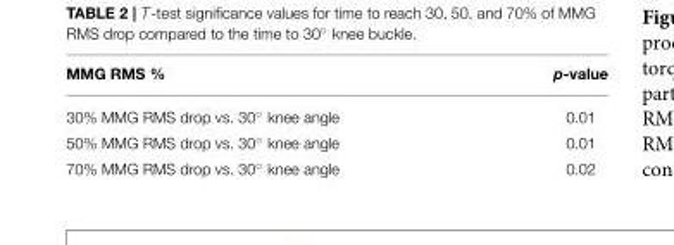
<table><thead><tr><td>MMG RMS %</td><td>p-value</td></tr></thead><tbody><tr><td>30% MMG RMS drop vs. 30◦ knee angle</td><td>0.01</td></tr><tr><td>50% MMG RMS drop vs. 30◦ knee angle</td><td>0.01</td></tr><tr><td>70% MMG RMS drop vs. 30◦ knee angle</td><td>0.02</td></tr></tbody></table>